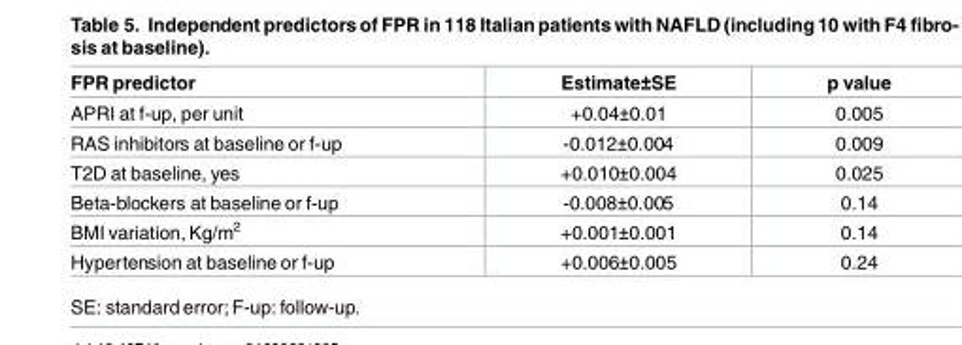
<table><thead><tr><td>FPR predictor</td><td>Estimate±SE</td><td>p value</td></tr></thead><tbody><tr><td>APRI at f-up, per unit</td><td>+0.04±0.01</td><td>0.005</td></tr><tr><td>RAS inhibitors at baseline or f-up</td><td>-0.012±0.004</td><td>0.009</td></tr><tr><td>T2D at baseline, yes</td><td>+0.010±0.004</td><td>0.025</td></tr><tr><td>Beta-blockers at baseline or f-up</td><td>-0.008±0.005</td><td>0.14</td></tr><tr><td>BMI variation, Kg/m<sup>2</sup></td><td>+0.001±0.001</td><td>0.14</td></tr><tr><td>Hypertension at baseline or f-up</td><td>+0.006±0.005</td><td>0.24</td></tr></tbody></table>